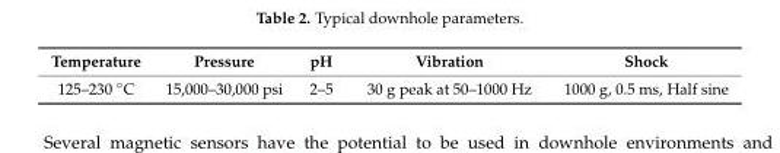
<table><thead><tr><td>Temperature</td><td>Pressure</td><td>pH</td><td>Vibration</td><td>Shock</td></tr></thead><tbody><tr><td>125–230 ◦C</td><td>15,000–30,000 psi</td><td>2–5</td><td>30 g peak at 50–1000 Hz</td><td>1000 g, 0.5 ms, Half sine</td></tr></tbody></table>